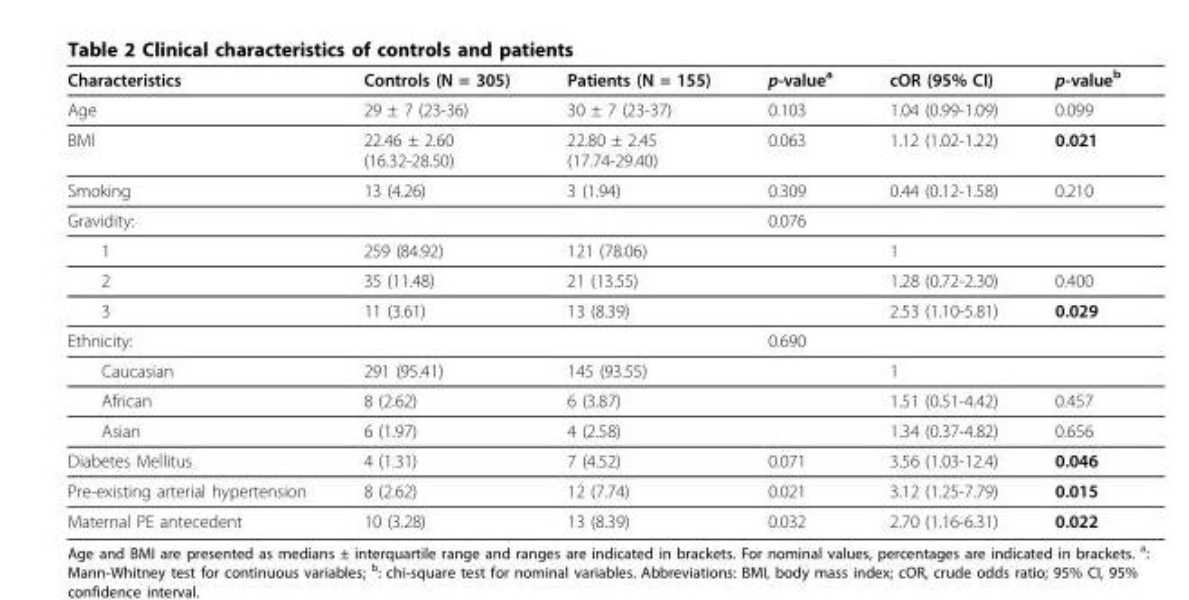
<table><thead><tr><td>Characteristics</td><td>Controls (N = 305)</td><td>Patients (N = 155)</td><td>p-value<sup>a</sup></td><td>cOR (95% CI)</td><td>p-value<sup>b</sup></td></tr></thead><tbody><tr><td>Age</td><td>29 ± 7 (23-36)</td><td>30 ± 7 (23-37)</td><td>0.103</td><td>1.04 (0.99-1.09)</td><td>0.099</td></tr><tr><td>BMI</td><td>22.46 ± 2.60 (16.32-28.50)</td><td>22.80 ± 2.45 (17.74-29.40)</td><td>0.063</td><td>1.12 (1.02-1.22)</td><td>0.021</td></tr><tr><td>Smoking</td><td>13 (4.26)</td><td>3 (1.94)</td><td>0.309</td><td>0.44 (0.12-1.58)</td><td>0.210</td></tr><tr><td>Gravidity:</td><td></td><td></td><td>0.076</td><td></td><td></td></tr><tr><td>1</td><td>259 (84.92)</td><td>121 (78.06)</td><td></td><td>1</td><td></td></tr><tr><td>2</td><td>35 (11.48)</td><td>21 (13.55)</td><td></td><td>1.28 (0.72-2.30)</td><td>0.400</td></tr><tr><td>3</td><td>11 (3.61)</td><td>13 (8.39)</td><td></td><td>2.53 (1.10-5.81)</td><td>0.029</td></tr><tr><td>Ethnicity:</td><td></td><td></td><td>0.690</td><td></td><td></td></tr><tr><td>Caucasian</td><td>291 (95.41)</td><td>145 (93.55)</td><td></td><td>1</td><td></td></tr><tr><td>African</td><td>8 (2.62)</td><td>6 (3.87)</td><td></td><td>1.51 (0.51-4.42)</td><td>0.457</td></tr><tr><td>Asian</td><td>6 (1.97)</td><td>4 (2.58)</td><td></td><td>1.34 (0.37-4.82)</td><td>0.656</td></tr><tr><td>Diabetes Mellitus</td><td>4 (1.31)</td><td>7 (4.52)</td><td>0.071</td><td>3.56 (1.03-12.4)</td><td>0.046</td></tr><tr><td>Pre-existing arterial hypertension</td><td>8 (2.62)</td><td>12 (7.74)</td><td>0.021</td><td>3.12 (1.25-7.79)</td><td>0.015</td></tr><tr><td>Maternal PE antecedent</td><td>10 (3.28)</td><td>13 (8.39)</td><td>0.032</td><td>2.70 (1.16-6.31)</td><td>0.022</td></tr></tbody></table>